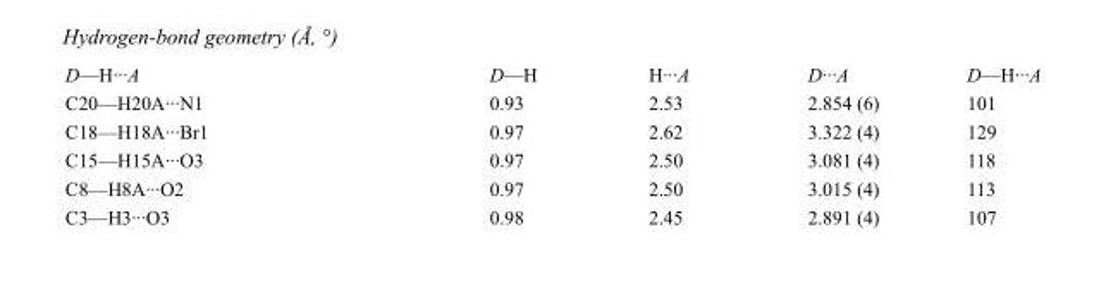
<table><tbody><tr><td>D—H···A</td><td>D—H</td><td>H···A</td><td>D···A</td><td>D—H···A</td></tr><tr><td>C20—H20A···N1</td><td>0.93</td><td>2.53</td><td>2.854 (6)</td><td>101</td></tr><tr><td>C18—H18A···Br1</td><td>0.97</td><td>2.62</td><td>3.322 (4)</td><td>129</td></tr><tr><td>C15—H15A···O3</td><td>0.97</td><td>2.50</td><td>3.081 (4)</td><td>118</td></tr><tr><td>C8—H8A···O2</td><td>0.97</td><td>2.50</td><td>3.015 (4)</td><td>113</td></tr><tr><td>C3—H3···O3</td><td>0.98</td><td>2.45</td><td>2.891 (4)</td><td>107</td></tr></tbody></table>